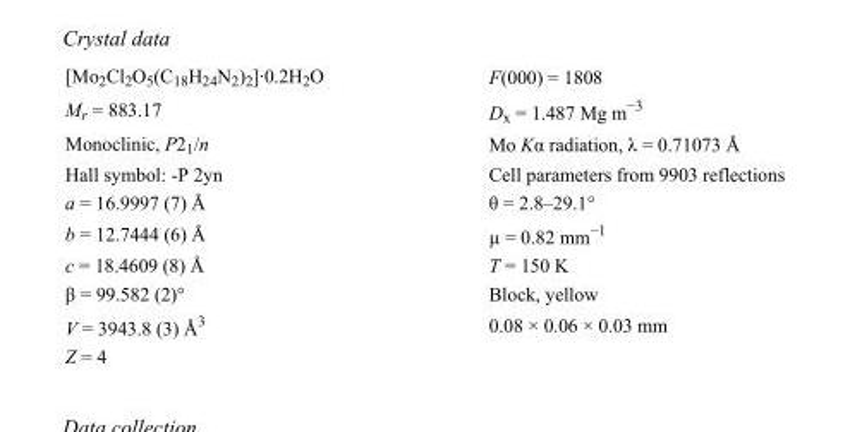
<table><tbody><tr><td>[Mo<sub>2</sub>Cl<sub>2</sub>O<sub>5</sub>(C<sub>18</sub>H<sub>24</sub>N<sub>2</sub>)<sub>2</sub>]·0.2H<sub>2</sub>O</td><td>F(000) = 1808</td></tr><tr><td>M<sub>r</sub> = 883.17</td><td>D<sub>x</sub> = 1.487 Mg m<sup>−3</sup></td></tr><tr><td>Monoclinic, P2<sub>1</sub>/n</td><td>Mo Kα radiation, λ = 0.71073 Å</td></tr><tr><td>Hall symbol: -P 2yn</td><td>Cell parameters from 9903 reflections</td></tr><tr><td>a = 16.9997 (7) Å</td><td>θ = 2.8–29.1°</td></tr><tr><td>b = 12.7444 (6) Å</td><td>µ = 0.82 mm<sup>−1</sup></td></tr><tr><td>c = 18.4609 (8) Å</td><td>T = 150 K</td></tr><tr><td>β = 99.582 (2)°</td><td>Block, yellow</td></tr><tr><td>V = 3943.8 (3) Å<sup>3</sup></td><td>0.08 × 0.06 × 0.03 mm</td></tr><tr><td>Z = 4</td><td></td></tr></tbody></table>